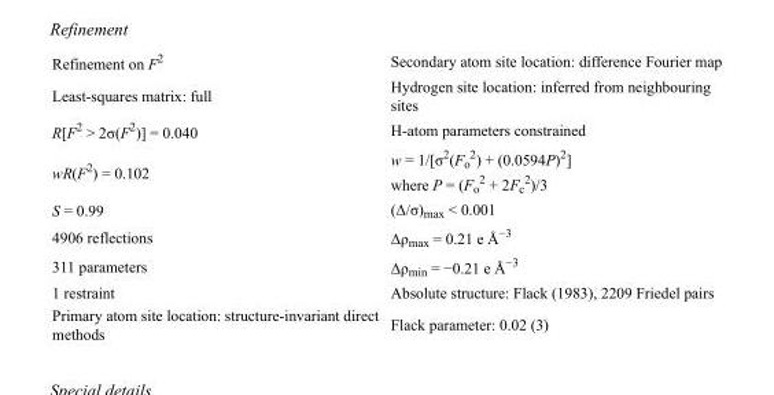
<table><tbody><tr><td>Refinement on F<sup>2</sup></td><td>Secondary atom site location: difference Fourier map</td></tr><tr><td>Least-squares matrix: full</td><td>Hydrogen site location: inferred from neighbouring sites</td></tr><tr><td>R[F<sup>2</sup> &gt; 2σ(F<sup>2</sup>)] = 0.040</td><td>H-atom parameters constrained</td></tr><tr><td>wR(F<sup>2</sup>) = 0.102</td><td>w = 1/[σ<sup>2</sup>(F<sub>o</sub> <sup>2</sup>) + (0.0594P)<sup>2</sup>] where P = (F<sub>o</sub> <sup>2</sup> + 2F<sub>c</sub> <sup>2</sup>)/3</td></tr><tr><td>S = 0.99</td><td>(Δ/σ)<sub>max</sub> &lt; 0.001</td></tr><tr><td>4906 reflections</td><td>Δρ<sub>max</sub> = 0.21 e Å<sup>−3</sup></td></tr><tr><td>311 parameters</td><td>Δρ<sub>min</sub> = −0.21 e Å<sup>−3</sup></td></tr><tr><td>1 restraint</td><td>Absolute structure: Flack (1983), 2209 Friedel pairs</td></tr><tr><td>Primary atom site location: structure-invariant direct methods</td><td>Flack parameter: 0.02 (3)</td></tr></tbody></table>